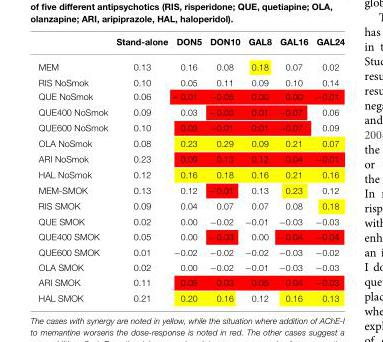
<table><thead><tr><td></td><td>Stand-alone</td><td>DON5</td><td>DON10</td><td>GAL8</td><td>GAL16</td><td>GAL24</td></tr></thead><tbody><tr><td>MEM</td><td>0.13</td><td>0.16</td><td>0.08</td><td>0.18</td><td>0.07</td><td>0.02</td></tr><tr><td>RIS NoSmok</td><td>0.10</td><td>0.05</td><td>0.11</td><td>0.09</td><td>0.10</td><td>0.14</td></tr><tr><td>QUE NoSmok</td><td>0.06</td><td>− 0.01</td><td>−0.05</td><td>0.00</td><td>0.00</td><td>−0.01</td></tr><tr><td>QUE400 NoSmok</td><td>0.09</td><td>0.03</td><td>− 0.03</td><td>0.01</td><td>−0.07</td><td>0.06</td></tr><tr><td>QUE600 NoSmok</td><td>0.10</td><td>0.03</td><td>−0.01</td><td>0.01</td><td>−0.07</td><td>0.09</td></tr><tr><td>OLA NoSmok</td><td>0.08</td><td>0.23</td><td>0.29</td><td>0.09</td><td>0.21</td><td>0.07</td></tr><tr><td>ARI NoSmok</td><td>0.23</td><td>0.09</td><td>0.13</td><td>0.12</td><td>0.04</td><td>−0.01</td></tr><tr><td>HAL NoSmok</td><td>0.12</td><td>0.16</td><td>0.18</td><td>0.16</td><td>0.21</td><td>0.16</td></tr><tr><td>MEM-SMOK</td><td>0.13</td><td>0.12</td><td>− 0.01</td><td>0.13</td><td>0.23</td><td>0.12</td></tr><tr><td>RIS SMOK</td><td>0.09</td><td>0.04</td><td>0.07</td><td>0.07</td><td>0.08</td><td>0.18</td></tr><tr><td>QUE SMOK</td><td>0.02</td><td>0.00</td><td>−0.02</td><td>−0.01</td><td>−0.03</td><td>−0.03</td></tr><tr><td>QUE400 SMOK</td><td>0.05</td><td>0.00</td><td>− 0.03</td><td>0.00</td><td>− 0.04</td><td>−0.04</td></tr><tr><td>QUE600 SMOK</td><td>0.01</td><td>−0.02</td><td>−0.02</td><td>−0.02</td><td>−0.03</td><td>−0.02</td></tr><tr><td>OLA SMOK</td><td>0.02</td><td>0.00</td><td>−0.02</td><td>−0.01</td><td>−0.03</td><td>−0.03</td></tr><tr><td>ARI SMOK</td><td>0.11</td><td>0.05</td><td>0.03</td><td>0.05</td><td>0.04</td><td>−0.03</td></tr><tr><td>HAL SMOK</td><td>0.21</td><td>0.20</td><td>0.16</td><td>0.12</td><td>0.16</td><td>0.13</td></tr></tbody></table>